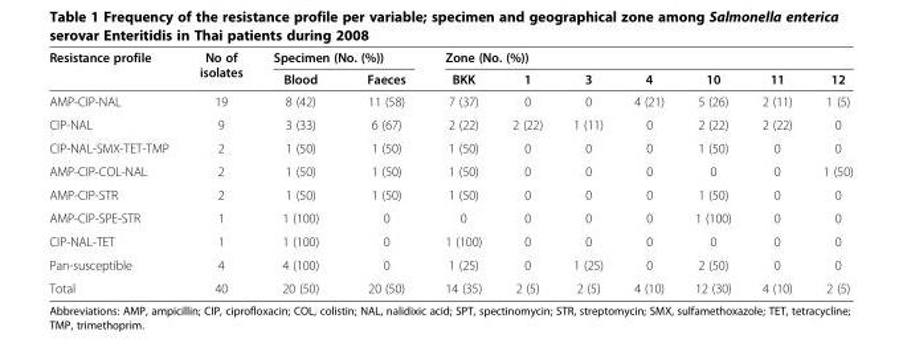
<table><thead><tr><td rowspan="2">Resistance profile</td><td rowspan="2">No of isolates</td><td colspan="2">Specimen (No. (%))</td><td colspan="7">Zone (No. (%))</td></tr><tr><td>Blood</td><td>Faeces</td><td>BKK</td><td>1</td><td>3</td><td>4</td><td>10</td><td>11</td><td>12</td></tr></thead><tbody><tr><td>AMP-CIP-NAL</td><td>19</td><td>8 (42)</td><td>11 (58)</td><td>7 (37)</td><td>0</td><td>0</td><td>4 (21)</td><td>5 (26)</td><td>2 (11)</td><td>1 (5)</td></tr><tr><td>CIP-NAL</td><td>9</td><td>3 (33)</td><td>6 (67)</td><td>2 (22)</td><td>2 (22)</td><td>1 (11)</td><td>0</td><td>2 (22)</td><td>2 (22)</td><td>0</td></tr><tr><td>CIP-NAL-SMX-TET-TMP</td><td>2</td><td>1 (50)</td><td>1 (50)</td><td>1 (50)</td><td>0</td><td>0</td><td>0</td><td>1 (50)</td><td>0</td><td>0</td></tr><tr><td>AMP-CIP-COL-NAL</td><td>2</td><td>1 (50)</td><td>1 (50)</td><td>1 (50)</td><td>0</td><td>0</td><td>0</td><td>0</td><td>0</td><td>1 (50)</td></tr><tr><td>AMP-CIP-STR</td><td>2</td><td>1 (50)</td><td>1 (50)</td><td>1 (50)</td><td>0</td><td>0</td><td>0</td><td>1 (50)</td><td>0</td><td>0</td></tr><tr><td>AMP-CIP-SPE-STR</td><td>1</td><td>1 (100)</td><td>0</td><td>0</td><td>0</td><td>0</td><td>0</td><td>1 (100)</td><td>0</td><td>0</td></tr><tr><td>CIP-NAL-TET</td><td>1</td><td>1 (100)</td><td>0</td><td>1 (100)</td><td>0</td><td>0</td><td>0</td><td>0</td><td>0</td><td>0</td></tr><tr><td>Pan-susceptible</td><td>4</td><td>4 (100)</td><td>0</td><td>1 (25)</td><td>0</td><td>1 (25)</td><td>0</td><td>2 (50)</td><td>0</td><td>0</td></tr><tr><td>Total</td><td>40</td><td>20 (50)</td><td>20 (50)</td><td>14 (35)</td><td>2 (5)</td><td>2 (5)</td><td>4 (10)</td><td>12 (30)</td><td>4 (10)</td><td>2 (5)</td></tr></tbody></table>